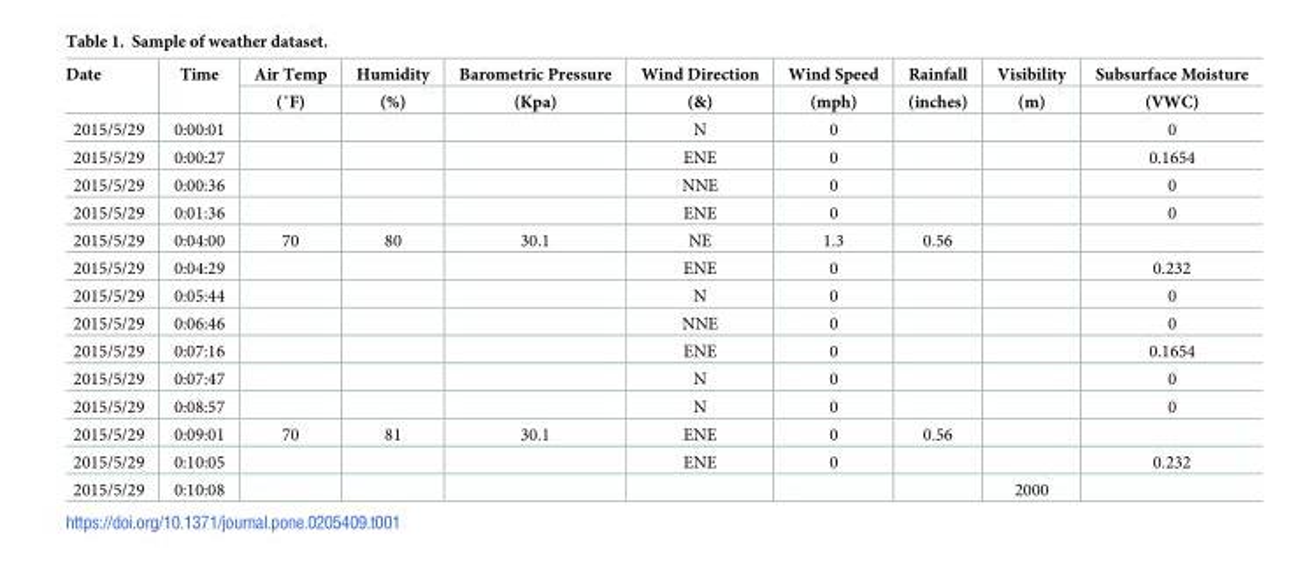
<table><thead><tr><td rowspan="2">Date</td><td rowspan="2">Time</td><td rowspan="2">Air Temp (˚F)</td><td rowspan="2">Humidity (%)</td><td rowspan="2">Barometric Pressure (Kpa)</td><td rowspan="2">Wind Direction (&amp;)</td><td rowspan="2">Wind Speed (mph)</td><td rowspan="2">Rainfall (inches)</td><td rowspan="2">Visibility (m)</td><td rowspan="2">Subsurface Moisture (VWC)</td></tr><tr></tr></thead><tbody><tr><td>2015/5/29</td><td>0:00:01</td><td></td><td></td><td></td><td>N</td><td>0</td><td></td><td></td><td>0</td></tr><tr><td>2015/5/29</td><td>0:00:27</td><td></td><td></td><td></td><td>ENE</td><td>0</td><td></td><td></td><td>0.1654</td></tr><tr><td>2015/5/29</td><td>0:00:36</td><td></td><td></td><td></td><td>NNE</td><td>0</td><td></td><td></td><td>0</td></tr><tr><td>2015/5/29</td><td>0:01:36</td><td></td><td></td><td></td><td>ENE</td><td>0</td><td></td><td></td><td>0</td></tr><tr><td>2015/5/29</td><td>0:04:00</td><td>70</td><td>80</td><td>30.1</td><td>NE</td><td>1.3</td><td>0.56</td><td></td><td></td></tr><tr><td>2015/5/29</td><td>0:04:29</td><td></td><td></td><td></td><td>ENE</td><td>0</td><td></td><td></td><td>0.232</td></tr><tr><td>2015/5/29</td><td>0:05:44</td><td></td><td></td><td></td><td>N</td><td>0</td><td></td><td></td><td>0</td></tr><tr><td>2015/5/29</td><td>0:06:46</td><td></td><td></td><td></td><td>NNE</td><td>0</td><td></td><td></td><td>0</td></tr><tr><td>2015/5/29</td><td>0:07:16</td><td></td><td></td><td></td><td>ENE</td><td>0</td><td></td><td></td><td>0.1654</td></tr><tr><td>2015/5/29</td><td>0:07:47</td><td></td><td></td><td></td><td>N</td><td>0</td><td></td><td></td><td>0</td></tr><tr><td>2015/5/29</td><td>0:08:57</td><td></td><td></td><td></td><td>N</td><td>0</td><td></td><td></td><td>0</td></tr><tr><td>2015/5/29</td><td>0:09:01</td><td>70</td><td>81</td><td>30.1</td><td>ENE</td><td>0</td><td>0.56</td><td></td><td></td></tr><tr><td>2015/5/29</td><td>0:10:05</td><td></td><td></td><td></td><td>ENE</td><td>0</td><td></td><td></td><td>0.232</td></tr><tr><td>2015/5/29</td><td>0:10:08</td><td></td><td></td><td></td><td></td><td></td><td></td><td>2000</td><td></td></tr></tbody></table>